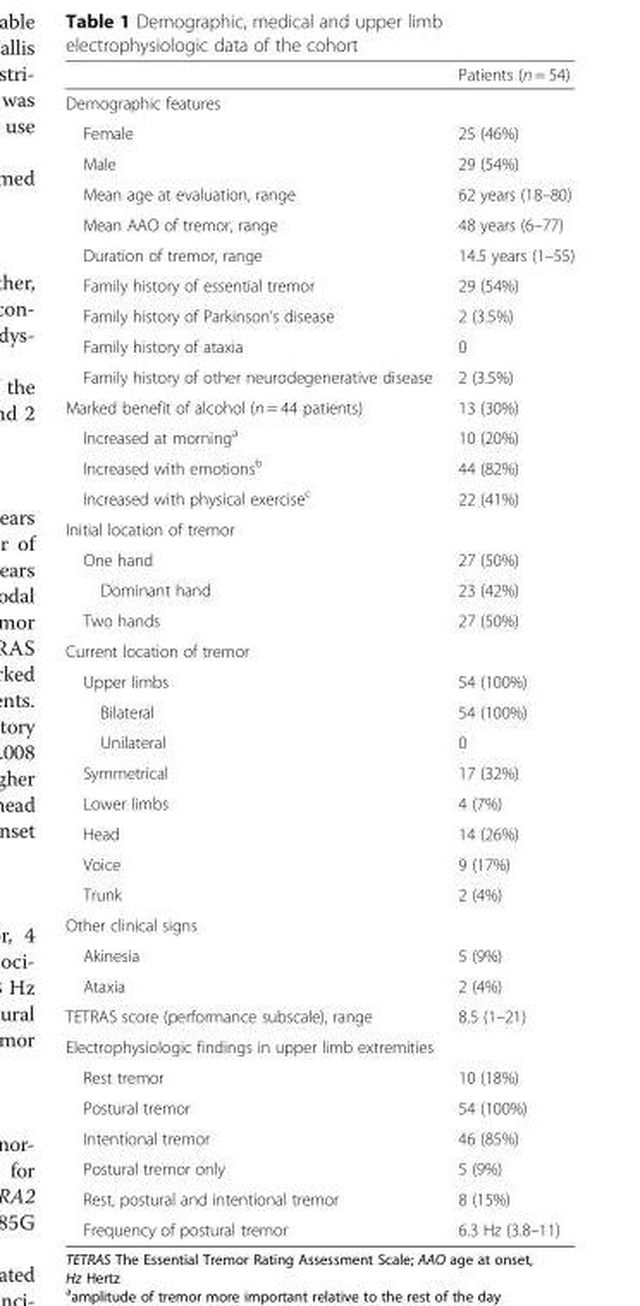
<table><thead><tr><td></td><td>Patients (n = 54)</td></tr></thead><tbody><tr><td colspan="2">Demographic features</td></tr><tr><td>Female</td><td>25 (46%)</td></tr><tr><td>Male</td><td>29 (54%)</td></tr><tr><td>Mean age at evaluation, range</td><td>62 years (18–80)</td></tr><tr><td>Mean AAO of tremor, range</td><td>48 years (6–77)</td></tr><tr><td>Duration of tremor, range</td><td>14.5 years (1–55)</td></tr><tr><td>Family history of essential tremor</td><td>29 (54%)</td></tr><tr><td>Family history of Parkinson’s disease</td><td>2 (3.5%)</td></tr><tr><td>Family history of ataxia</td><td>0</td></tr><tr><td>Family history of other neurodegenerative disease</td><td>2 (3.5%)</td></tr><tr><td>Marked benefit of alcohol (n = 44 patients)</td><td>13 (30%)</td></tr><tr><td>Increased at morning<sup>a</sup></td><td>10 (20%)</td></tr><tr><td>Increased with emotions<sup>b</sup></td><td>44 (82%)</td></tr><tr><td>Increased with physical exercise<sup>c</sup></td><td>22 (41%)</td></tr><tr><td colspan="2">Initial location of tremor</td></tr><tr><td>One hand</td><td>27 (50%)</td></tr><tr><td>Dominant hand</td><td>23 (42%)</td></tr><tr><td>Two hands</td><td>27 (50%)</td></tr><tr><td colspan="2">Current location of tremor</td></tr><tr><td>Upper limbs</td><td>54 (100%)</td></tr><tr><td>Bilateral</td><td>54 (100%)</td></tr><tr><td>Unilateral</td><td>0</td></tr><tr><td>Symmetrical</td><td>17 (32%)</td></tr><tr><td>Lower limbs</td><td>4 (7%)</td></tr><tr><td>Head</td><td>14 (26%)</td></tr><tr><td>Voice</td><td>9 (17%)</td></tr><tr><td>Trunk</td><td>2 (4%)</td></tr><tr><td colspan="2">Other clinical signs</td></tr><tr><td>Akinesia</td><td>5 (9%)</td></tr><tr><td>Ataxia</td><td>2 (4%)</td></tr><tr><td>TETRAS score (performance subscale), range</td><td>8.5 (1–21)</td></tr><tr><td colspan="2">Electrophysiologic findings in upper limb extremities</td></tr><tr><td>Rest tremor</td><td>10 (18%)</td></tr><tr><td>Postural tremor</td><td>54 (100%)</td></tr><tr><td>Intentional tremor</td><td>46 (85%)</td></tr><tr><td>Postural tremor only</td><td>5 (9%)</td></tr><tr><td>Rest, postural and intentional tremor</td><td>8 (15%)</td></tr><tr><td>Frequency of postural tremor</td><td>6.3 Hz (3.8–11)</td></tr></tbody></table>